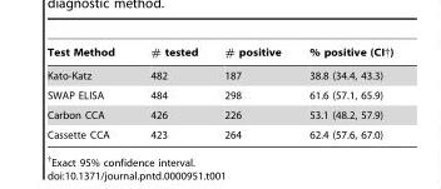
<table><thead><tr><td>Test Method</td><td># tested</td><td># positive</td><td>% positive (CI†)</td></tr></thead><tbody><tr><td>Kato-Katz</td><td>482</td><td>187</td><td>38.8 (34.4, 43.3)</td></tr><tr><td>SWAP ELISA</td><td>484</td><td>298</td><td>61.6 (57.1, 65.9)</td></tr><tr><td>Carbon CCA</td><td>426</td><td>226</td><td>53.1 (48.2, 57.9)</td></tr><tr><td>Cassette CCA</td><td>423</td><td>264</td><td>62.4 (57.6, 67.0)</td></tr></tbody></table>